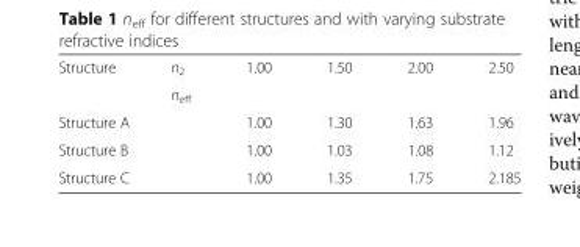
<table><tbody><tr><td rowspan="2">Structure</td><td>n<sub>2</sub></td><td rowspan="2">1.00</td><td rowspan="2">1.50</td><td rowspan="2">2.00</td><td rowspan="2">2.50</td></tr><tr><td>n<sub>eff</sub></td></tr><tr><td colspan="2">Structure A</td><td>1.00</td><td>1.30</td><td>1.63</td><td>1.96</td></tr><tr><td colspan="2">Structure B</td><td>1.00</td><td>1.03</td><td>1.08</td><td>1.12</td></tr><tr><td colspan="2">Structure C</td><td>1.00</td><td>1.35</td><td>1.75</td><td>2.185</td></tr></tbody></table>